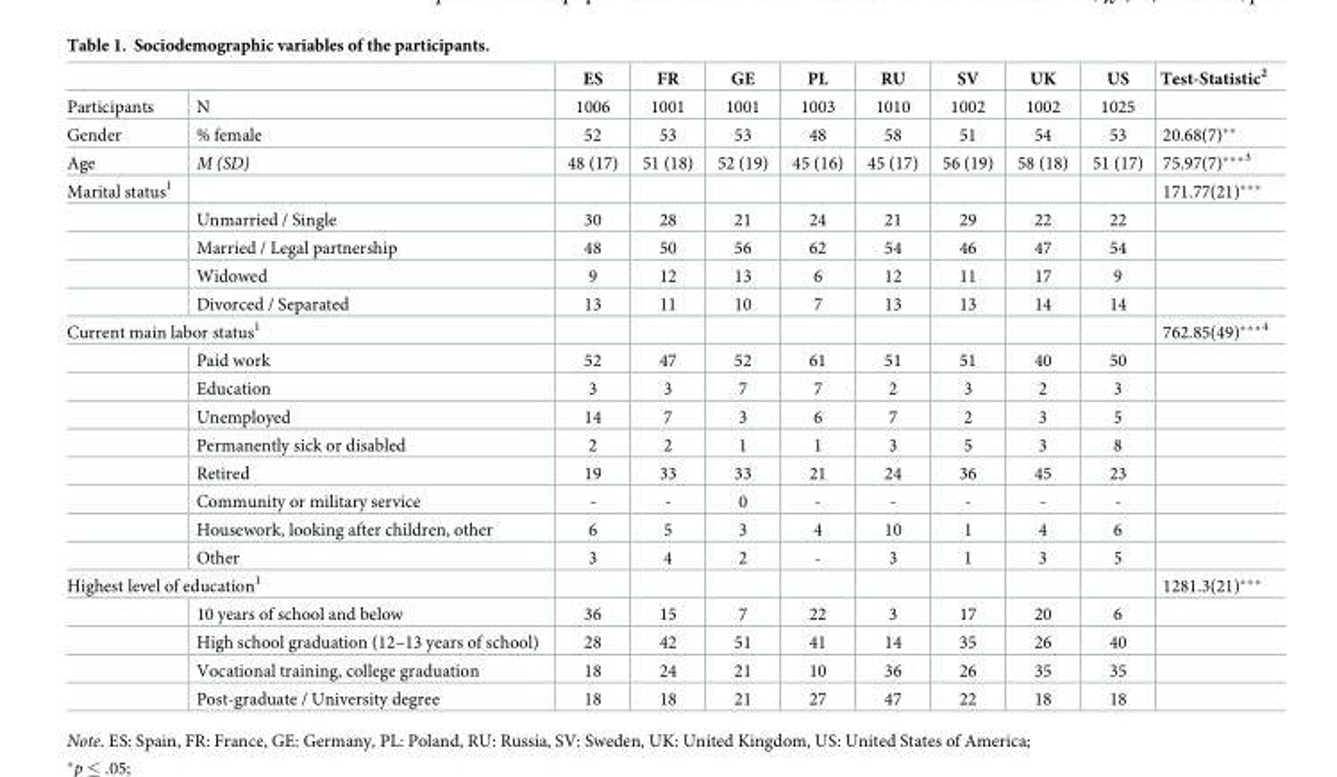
<table><thead><tr><td></td><td></td><td>ES</td><td>FR</td><td>GE</td><td>PL</td><td>RU</td><td>SV</td><td>UK</td><td>US</td><td>Test-Statistic<sup>2</sup></td></tr></thead><tbody><tr><td>Participants</td><td>N</td><td>1006</td><td>1001</td><td>1001</td><td>1003</td><td>1010</td><td>1002</td><td>1002</td><td>1025</td><td></td></tr><tr><td>Gender</td><td>% female</td><td>52</td><td>53</td><td>53</td><td>48</td><td>58</td><td>51</td><td>54</td><td>53</td><td>20.68(7)**</td></tr><tr><td>Age</td><td>M (SD)</td><td>48 (17)</td><td>51 (18)</td><td>52 (19)</td><td>45 (16)</td><td>45 (17)</td><td>56 (19)</td><td>58 (18)</td><td>51 (17)</td><td>75.97(7)***<sup>3</sup></td></tr><tr><td rowspan="5">Marital status<sup>1</sup></td><td></td><td></td><td></td><td></td><td></td><td></td><td></td><td></td><td></td><td>171.77(21)***</td></tr><tr><td>Unmarried / Single</td><td>30</td><td>28</td><td>21</td><td>24</td><td>21</td><td>29</td><td>22</td><td>22</td><td></td></tr><tr><td>Married / Legal partnership</td><td>48</td><td>50</td><td>56</td><td>62</td><td>54</td><td>46</td><td>47</td><td>54</td><td></td></tr><tr><td>Widowed</td><td>9</td><td>12</td><td>13</td><td>6</td><td>12</td><td>11</td><td>17</td><td>9</td><td></td></tr><tr><td>Divorced / Separated</td><td>13</td><td>11</td><td>10</td><td>7</td><td>13</td><td>13</td><td>14</td><td>14</td><td></td></tr><tr><td colspan="2">Current main labor status<sup>1</sup></td><td></td><td></td><td></td><td></td><td></td><td></td><td></td><td></td><td>762.85(49)***<sup>4</sup></td></tr><tr><td></td><td>Paid work</td><td>52</td><td>47</td><td>52</td><td>61</td><td>51</td><td>51</td><td>40</td><td>50</td><td></td></tr><tr><td></td><td>Education</td><td>3</td><td>3</td><td>7</td><td>7</td><td>2</td><td>3</td><td>2</td><td>3</td><td></td></tr><tr><td></td><td>Unemployed</td><td>14</td><td>7</td><td>3</td><td>6</td><td>7</td><td>2</td><td>3</td><td>5</td><td></td></tr><tr><td></td><td>Permanently sick or disabled</td><td>2</td><td>2</td><td>1</td><td>1</td><td>3</td><td>5</td><td>3</td><td>8</td><td></td></tr><tr><td></td><td>Retired</td><td>19</td><td>33</td><td>33</td><td>21</td><td>24</td><td>36</td><td>45</td><td>23</td><td></td></tr><tr><td></td><td>Community or military service</td><td>-</td><td>-</td><td>0</td><td>-</td><td>-</td><td>-</td><td>-</td><td>-</td><td></td></tr><tr><td></td><td>Housework, looking after children, other</td><td>6</td><td>5</td><td>3</td><td>4</td><td>10</td><td>1</td><td>4</td><td>6</td><td></td></tr><tr><td></td><td>Other</td><td>3</td><td>4</td><td>2</td><td>-</td><td>3</td><td>1</td><td>3</td><td>5</td><td></td></tr><tr><td colspan="2">Highest level of education<sup>1</sup></td><td></td><td></td><td></td><td></td><td></td><td></td><td></td><td></td><td>1281.3(21)***</td></tr><tr><td></td><td>10 years of school and below</td><td>36</td><td>15</td><td>7</td><td>22</td><td>3</td><td>17</td><td>20</td><td>6</td><td></td></tr><tr><td></td><td>High school graduation (12–13 years of school)</td><td>28</td><td>42</td><td>51</td><td>41</td><td>14</td><td>35</td><td>26</td><td>40</td><td></td></tr><tr><td></td><td>Vocational training, college graduation</td><td>18</td><td>24</td><td>21</td><td>10</td><td>36</td><td>26</td><td>35</td><td>35</td><td></td></tr><tr><td></td><td>Post-graduate / University degree</td><td>18</td><td>18</td><td>21</td><td>27</td><td>47</td><td>22</td><td>18</td><td>18</td><td></td></tr></tbody></table>